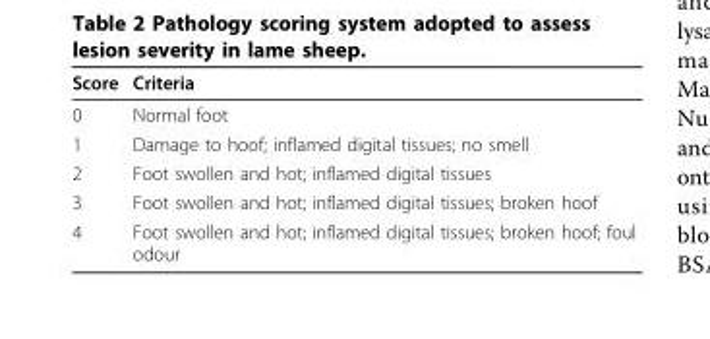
<table><thead><tr><td>Score</td><td>Criteria</td></tr></thead><tbody><tr><td>0</td><td>Normal foot</td></tr><tr><td>1</td><td>Damage to hoof; inflamed digital tissues; no smell</td></tr><tr><td>2</td><td>Foot swollen and hot; inflamed digital tissues</td></tr><tr><td>3</td><td>Foot swollen and hot; inflamed digital tissues; broken hoof</td></tr><tr><td>4</td><td>Foot swollen and hot; inflamed digital tissues; broken hoof; foul odour</td></tr></tbody></table>